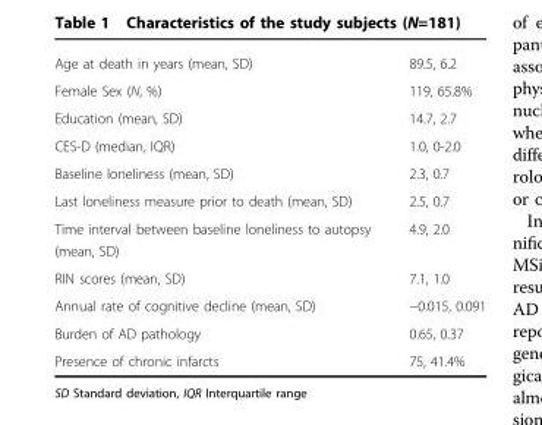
<table><tbody><tr><td>Age at death in years (mean, SD)</td><td>89.5, 6.2</td></tr><tr><td>Female Sex (N, %)</td><td>119, 65.8%</td></tr><tr><td>Education (mean, SD)</td><td>14.7, 2.7</td></tr><tr><td>CES-D (median, IQR)</td><td>1.0, 0-2.0</td></tr><tr><td>Baseline loneliness (mean, SD)</td><td>2.3, 0.7</td></tr><tr><td>Last loneliness measure prior to death (mean, SD)</td><td>2.5, 0.7</td></tr><tr><td>Time interval between baseline loneliness to autopsy (mean, SD)</td><td>4.9, 2.0</td></tr><tr><td>RIN scores (mean, SD)</td><td>7.1, 1.0</td></tr><tr><td>Annual rate of cognitive decline (mean, SD)</td><td>−0.015, 0.091</td></tr><tr><td>Burden of AD pathology</td><td>0.65, 0.37</td></tr><tr><td>Presence of chronic infarcts</td><td>75, 41.4%</td></tr></tbody></table>